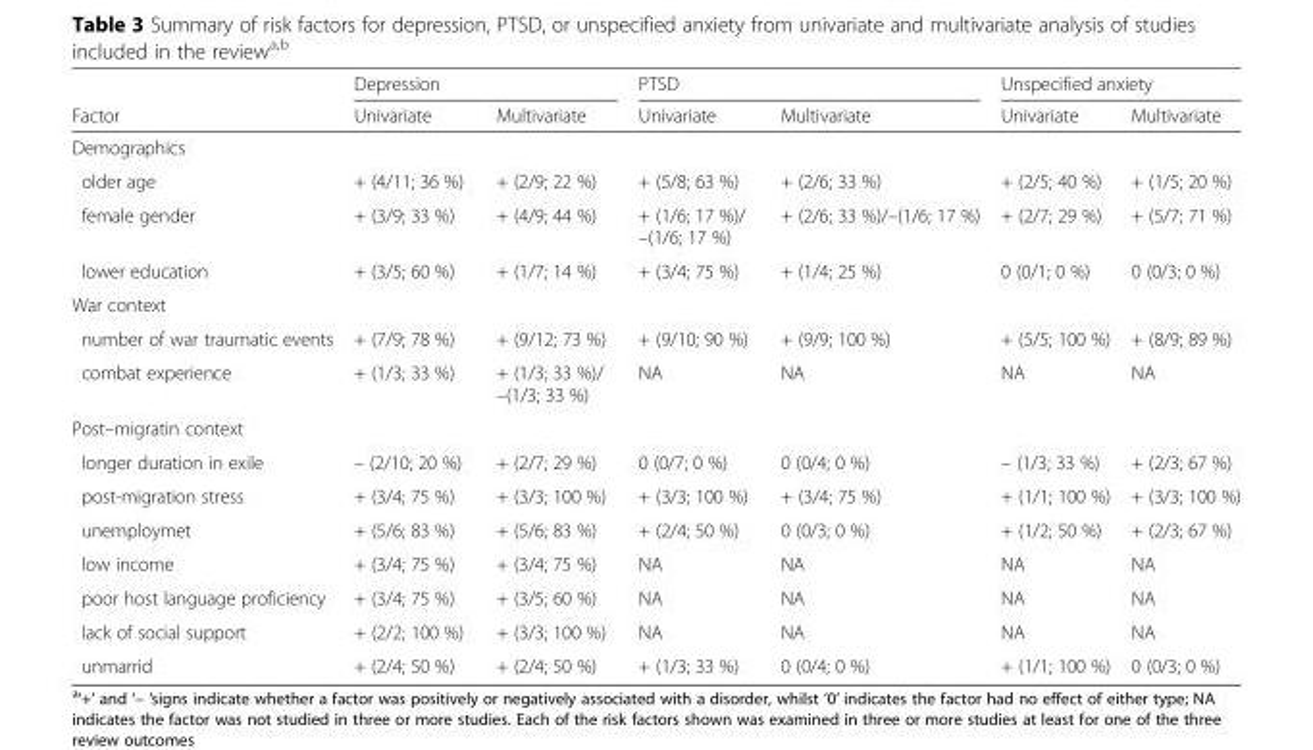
<table><thead><tr><td rowspan="2">Factor</td><td colspan="2">Depression</td><td colspan="2">PTSD</td><td colspan="2">Unspecified anxiety</td></tr><tr><td>Univariate</td><td>Multivariate</td><td>Univariate</td><td>Multivariate</td><td>Univariate</td><td>Multivariate</td></tr></thead><tbody><tr><td colspan="7">Demographics</td></tr><tr><td>older age</td><td>+ (4/11; 36 %)</td><td>+ (2/9; 22 %)</td><td>+ (5/8; 63 %)</td><td>+ (2/6; 33 %)</td><td>+ (2/5; 40 %)</td><td>+ (1/5; 20 %)</td></tr><tr><td>female gender</td><td>+ (3/9; 33 %)</td><td>+ (4/9; 44 %)</td><td>+ (1/6; 17 %)/ –(1/6; 17 %)</td><td>+ (2/6; 33 %)/–(1/6; 17 %)</td><td>+ (2/7; 29 %)</td><td>+ (5/7; 71 %)</td></tr><tr><td>lower education</td><td>+ (3/5; 60 %)</td><td>+ (1/7; 14 %)</td><td>+ (3/4; 75 %)</td><td>+ (1/4; 25 %)</td><td>0 (0/1; 0 %)</td><td>0 (0/3; 0 %)</td></tr><tr><td colspan="7">War context</td></tr><tr><td>number of war traumatic events</td><td>+ (7/9; 78 %)</td><td>+ (9/12; 73 %)</td><td>+ (9/10; 90 %)</td><td>+ (9/9; 100 %)</td><td>+ (5/5; 100 %)</td><td>+ (8/9; 89 %)</td></tr><tr><td>combat experience</td><td>+ (1/3; 33 %)</td><td>+ (1/3; 33 %)/ –(1/3; 33 %)</td><td>NA</td><td>NA</td><td>NA</td><td>NA</td></tr><tr><td colspan="7">Post–migratin context</td></tr><tr><td>longer duration in exile</td><td>– (2/10; 20 %)</td><td>+ (2/7; 29 %)</td><td>0 (0/7; 0 %)</td><td>0 (0/4; 0 %)</td><td>– (1/3; 33 %)</td><td>+ (2/3; 67 %)</td></tr><tr><td>post-migration stress</td><td>+ (3/4; 75 %)</td><td>+ (3/3; 100 %)</td><td>+ (3/3; 100 %)</td><td>+ (3/4; 75 %)</td><td>+ (1/1; 100 %)</td><td>+ (3/3; 100 %)</td></tr><tr><td>unemploymet</td><td>+ (5/6; 83 %)</td><td>+ (5/6; 83 %)</td><td>+ (2/4; 50 %)</td><td>0 (0/3; 0 %)</td><td>+ (1/2; 50 %)</td><td>+ (2/3; 67 %)</td></tr><tr><td>low income</td><td>+ (3/4; 75 %)</td><td>+ (3/4; 75 %)</td><td>NA</td><td>NA</td><td>NA</td><td>NA</td></tr><tr><td>poor host language proficiency</td><td>+ (3/4; 75 %)</td><td>+ (3/5; 60 %)</td><td>NA</td><td>NA</td><td>NA</td><td>NA</td></tr><tr><td>lack of social support</td><td>+ (2/2; 100 %)</td><td>+ (3/3; 100 %)</td><td>NA</td><td>NA</td><td>NA</td><td>NA</td></tr><tr><td>unmarrid</td><td>+ (2/4; 50 %)</td><td>+ (2/4; 50 %)</td><td>+ (1/3; 33 %)</td><td>0 (0/4; 0 %)</td><td>+ (1/1; 100 %)</td><td>0 (0/3; 0 %)</td></tr></tbody></table>